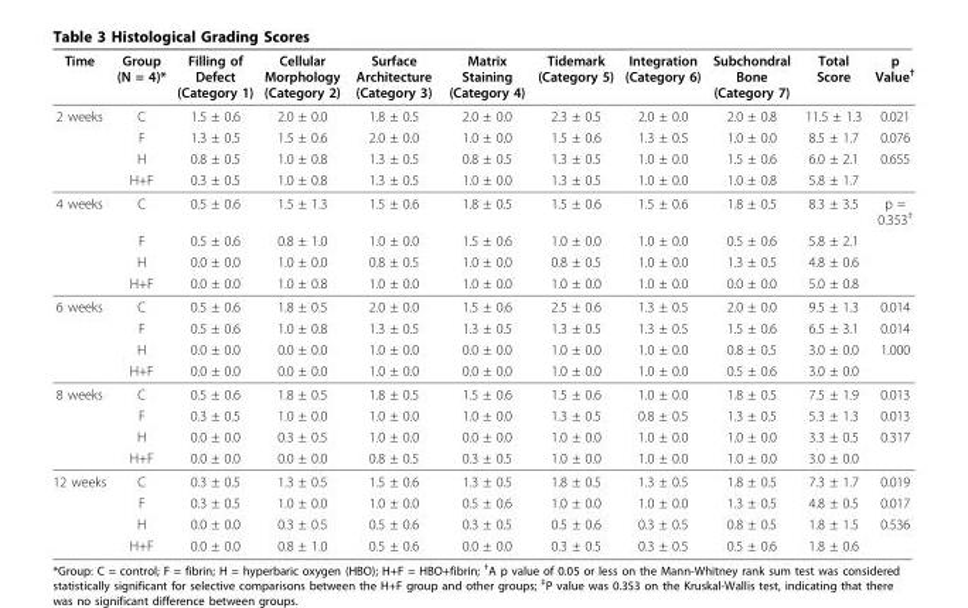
<table><thead><tr><td>Time</td><td>Group (N = 4)*</td><td>Filling of Defect (Category 1)</td><td>Cellular Morphology (Category 2)</td><td>Surface Architecture (Category 3)</td><td>Matrix Staining (Category 4)</td><td>Tidemark (Category 5)</td><td>Integration (Category 6)</td><td>Subchondral Bone (Category 7)</td><td>Total Score</td><td>p Value<sup>†</sup></td></tr></thead><tbody><tr><td rowspan="4">2 weeks</td><td>C</td><td>1.5 ± 0.6</td><td>2.0 ± 0.0</td><td>1.8 ± 0.5</td><td>2.0 ± 0.0</td><td>2.3 ± 0.5</td><td>2.0 ± 0.0</td><td>2.0 ± 0.8</td><td>11.5 ± 1.3</td><td>0.021</td></tr><tr><td>F</td><td>1.3 ± 0.5</td><td>1.5 ± 0.6</td><td>2.0 ± 0.0</td><td>1.0 ± 0.0</td><td>1.5 ± 0.6</td><td>1.3 ± 0.5</td><td>1.0 ± 0.0</td><td>8.5 ± 1.7</td><td>0.076</td></tr><tr><td>H</td><td>0.8 ± 0.5</td><td>1.0 ± 0.8</td><td>1.3 ± 0.5</td><td>0.8 ± 0.5</td><td>1.3 ± 0.5</td><td>1.0 ± 0.0</td><td>1.5 ± 0.6</td><td>6.0 ± 2.1</td><td>0.655</td></tr><tr><td>H+F</td><td>0.3 ± 0.5</td><td>1.0 ± 0.8</td><td>1.3 ± 0.5</td><td>1.0 ± 0.0</td><td>1.3 ± 0.5</td><td>1.0 ± 0.0</td><td>1.0 ± 0.8</td><td>5.8 ± 1.7</td><td></td></tr><tr><td rowspan="4">4 weeks</td><td>C</td><td>0.5 ± 0.6</td><td>1.5 ± 1.3</td><td>1.5 ± 0.6</td><td>1.8 ± 0.5</td><td>1.5 ± 0.6</td><td>1.5 ± 0.6</td><td>1.8 ± 0.5</td><td>8.3 ± 3.5</td><td>p = 0.353<sup>‡</sup></td></tr><tr><td>F</td><td>0.5 ± 0.6</td><td>0.8 ± 1.0</td><td>1.0 ± 0.0</td><td>1.5 ± 0.6</td><td>1.0 ± 0.0</td><td>1.0 ± 0.0</td><td>0.5 ± 0.6</td><td>5.8 ± 2.1</td><td></td></tr><tr><td>H</td><td>0.0 ± 0.0</td><td>1.0 ± 0.0</td><td>0.8 ± 0.5</td><td>1.0 ± 0.0</td><td>0.8 ± 0.5</td><td>1.0 ± 0.0</td><td>1.3 ± 0.5</td><td>4.8 ± 0.6</td><td></td></tr><tr><td>H+F</td><td>0.0 ± 0.0</td><td>1.0 ± 0.8</td><td>1.0 ± 0.0</td><td>1.0 ± 0.0</td><td>1.0 ± 0.0</td><td>1.0 ± 0.0</td><td>0.0 ± 0.0</td><td>5.0 ± 0.8</td><td></td></tr><tr><td rowspan="4">6 weeks</td><td>C</td><td>0.5 ± 0.6</td><td>1.8 ± 0.5</td><td>2.0 ± 0.0</td><td>1.5 ± 0.6</td><td>2.5 ± 0.6</td><td>1.3 ± 0.5</td><td>2.0 ± 0.0</td><td>9.5 ± 1.3</td><td>0.014</td></tr><tr><td>F</td><td>0.5 ± 0.6</td><td>1.0 ± 0.8</td><td>1.3 ± 0.5</td><td>1.3 ± 0.5</td><td>1.3 ± 0.5</td><td>1.3 ± 0.5</td><td>1.5 ± 0.6</td><td>6.5 ± 3.1</td><td>0.014</td></tr><tr><td>H</td><td>0.0 ± 0.0</td><td>0.0 ± 0.0</td><td>1.0 ± 0.0</td><td>0.0 ± 0.0</td><td>1.0 ± 0.0</td><td>1.0 ± 0.0</td><td>0.8 ± 0.5</td><td>3.0 ± 0.0</td><td>1.000</td></tr><tr><td>H+F</td><td>0.0 ± 0.0</td><td>0.0 ± 0.0</td><td>1.0 ± 0.0</td><td>0.0 ± 0.0</td><td>1.0 ± 0.0</td><td>1.0 ± 0.0</td><td>0.5 ± 0.6</td><td>3.0 ± 0.0</td><td></td></tr><tr><td rowspan="4">8 weeks</td><td>C</td><td>0.5 ± 0.6</td><td>1.8 ± 0.5</td><td>1.8 ± 0.5</td><td>1.5 ± 0.6</td><td>1.5 ± 0.6</td><td>1.0 ± 0.0</td><td>1.8 ± 0.5</td><td>7.5 ± 1.9</td><td>0.013</td></tr><tr><td>F</td><td>0.3 ± 0.5</td><td>1.0 ± 0.0</td><td>1.0 ± 0.0</td><td>1.0 ± 0.0</td><td>1.3 ± 0.5</td><td>0.8 ± 0.5</td><td>1.3 ± 0.5</td><td>5.3 ± 1.3</td><td>0.013</td></tr><tr><td>H</td><td>0.0 ± 0.0</td><td>0.3 ± 0.5</td><td>1.0 ± 0.0</td><td>0.0 ± 0.0</td><td>1.0 ± 0.0</td><td>1.0 ± 0.0</td><td>1.0 ± 0.0</td><td>3.3 ± 0.5</td><td>0.317</td></tr><tr><td>H+F</td><td>0.0 ± 0.0</td><td>0.0 ± 0.0</td><td>0.8 ± 0.5</td><td>0.3 ± 0.5</td><td>1.0 ± 0.0</td><td>1.0 ± 0.0</td><td>1.0 ± 0.0</td><td>3.0 ± 0.0</td><td></td></tr><tr><td rowspan="4">12 weeks</td><td>C</td><td>0.3 ± 0.5</td><td>1.3 ± 0.5</td><td>1.5 ± 0.6</td><td>1.3 ± 0.5</td><td>1.8 ± 0.5</td><td>1.3 ± 0.5</td><td>1.8 ± 0.5</td><td>7.3 ± 1.7</td><td>0.019</td></tr><tr><td>F</td><td>0.3 ± 0.5</td><td>1.0 ± 0.0</td><td>1.0 ± 0.0</td><td>0.5 ± 0.6</td><td>1.0 ± 0.0</td><td>1.0 ± 0.0</td><td>1.3 ± 0.5</td><td>4.8 ± 0.5</td><td>0.017</td></tr><tr><td>H</td><td>0.0 ± 0.0</td><td>0.3 ± 0.5</td><td>0.5 ± 0.6</td><td>0.3 ± 0.5</td><td>0.5 ± 0.6</td><td>0.3 ± 0.5</td><td>0.8 ± 0.5</td><td>1.8 ± 1.5</td><td>0.536</td></tr><tr><td>H+F</td><td>0.0 ± 0.0</td><td>0.8 ± 1.0</td><td>0.5 ± 0.6</td><td>0.0 ± 0.0</td><td>0.3 ± 0.5</td><td>0.3 ± 0.5</td><td>0.5 ± 0.6</td><td>1.8 ± 0.6</td><td></td></tr></tbody></table>